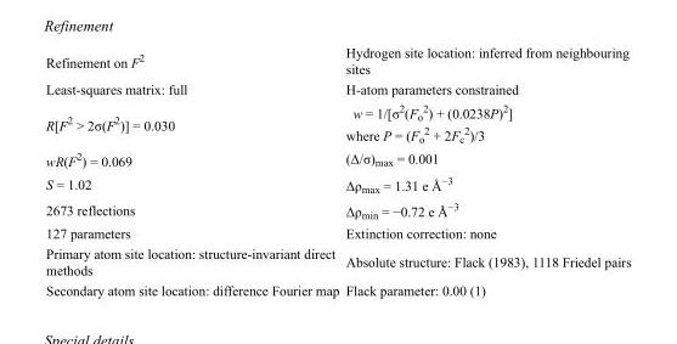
<table><tbody><tr><td>Refinement on F<sup>2</sup></td><td>Hydrogen site location: inferred from neighbouring sites</td></tr><tr><td>Least-squares matrix: full</td><td>H-atom parameters constrained</td></tr><tr><td>R[F<sup>2</sup> &gt; 2σ(F<sup>2</sup>)] = 0.030</td><td>w = 1/[σ<sup>2</sup>(F<sub>o</sub> <sup>2</sup>) + (0.0238P)<sup>2</sup>] where P = (F<sub>o</sub> <sup>2</sup> + 2F<sub>c</sub> <sup>2</sup>)/3</td></tr><tr><td>wR(F<sup>2</sup>) = 0.069</td><td>(Δ/σ)<sub>max</sub> = 0.001</td></tr><tr><td>S = 1.02</td><td>Δρ<sub>max</sub> = 1.31 e Å<sup>−3</sup></td></tr><tr><td>2673 reflections</td><td>Δρ<sub>min</sub> = −0.72 e Å<sup>−3</sup></td></tr><tr><td>127 parameters</td><td>Extinction correction: none</td></tr><tr><td>Primary atom site location: structure-invariant direct methods</td><td>Absolute structure: Flack (1983), 1118 Friedel pairs</td></tr><tr><td>Secondary atom site location: difference Fourier map</td><td>Flack parameter: 0.00 (1)</td></tr></tbody></table>